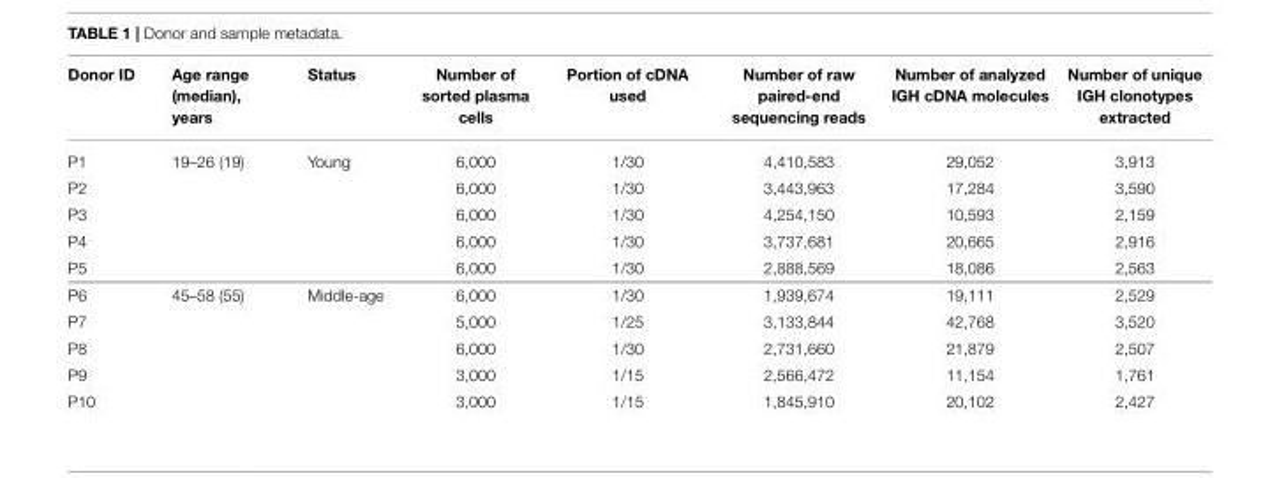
<table><thead><tr><td>Donor ID</td><td>Age range (median), years</td><td>Status</td><td>Number of sorted plasma cells</td><td>Portion of cDNA used</td><td>Number of raw paired-end sequencing reads</td><td>Number of analyzed IGH cDNA molecules</td><td>Number of unique IGH clonotypes extracted</td></tr></thead><tbody><tr><td>P1</td><td>19–26 (19)</td><td>Young</td><td>6,000</td><td>1/30</td><td>4,410,583</td><td>29,052</td><td>3,913</td></tr><tr><td>P2</td><td></td><td></td><td>6,000</td><td>1/30</td><td>3,443,963</td><td>17,284</td><td>3,590</td></tr><tr><td>P3</td><td></td><td></td><td>6,000</td><td>1/30</td><td>4,254,150</td><td>10,593</td><td>2,159</td></tr><tr><td>P4</td><td></td><td></td><td>6,000</td><td>1/30</td><td>3,737,681</td><td>20,665</td><td>2,916</td></tr><tr><td>P5</td><td></td><td></td><td>6,000</td><td>1/30</td><td>2,888,569</td><td>18,086</td><td>2,563</td></tr><tr><td>P6</td><td>45–58 (55)</td><td>Middle-age</td><td>6,000</td><td>1/30</td><td>1,939,674</td><td>19,111</td><td>2,529</td></tr><tr><td>P7</td><td></td><td></td><td>5,000</td><td>1/25</td><td>3,133,844</td><td>42,768</td><td>3,520</td></tr><tr><td>P8</td><td></td><td></td><td>6,000</td><td>1/30</td><td>2,731,660</td><td>21,879</td><td>2,507</td></tr><tr><td>P9</td><td></td><td></td><td>3,000</td><td>1/15</td><td>2,566,472</td><td>11,154</td><td>1,761</td></tr><tr><td>P10</td><td></td><td></td><td>3,000</td><td>1/15</td><td>1,845,910</td><td>20,102</td><td>2,427</td></tr></tbody></table>